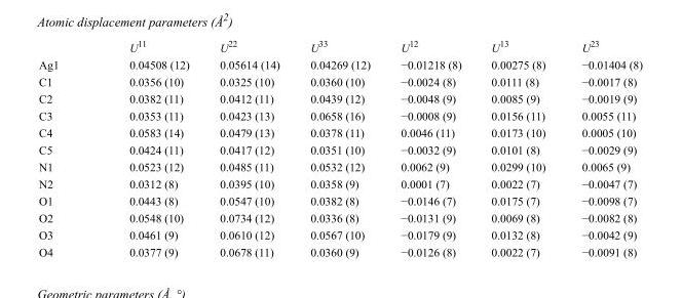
<table><thead><tr><td></td><td>U<sup>11</sup></td><td>U<sup>22</sup></td><td>U<sup>33</sup></td><td>U<sup>12</sup></td><td>U<sup>13</sup></td><td>U<sup>23</sup></td></tr></thead><tbody><tr><td>Ag1</td><td>0.04508 (12)</td><td>0.05614 (14)</td><td>0.04269 (12)</td><td>−0.01218 (8)</td><td>0.00275 (8)</td><td>−0.01404 (8)</td></tr><tr><td>C1</td><td>0.0356 (10)</td><td>0.0325 (10)</td><td>0.0360 (10)</td><td>−0.0024 (8)</td><td>0.0111 (8)</td><td>−0.0017 (8)</td></tr><tr><td>C2</td><td>0.0382 (11)</td><td>0.0412 (11)</td><td>0.0439 (12)</td><td>−0.0048 (9)</td><td>0.0085 (9)</td><td>−0.0019 (9)</td></tr><tr><td>C3</td><td>0.0353 (11)</td><td>0.0423 (13)</td><td>0.0658 (16)</td><td>−0.0008 (9)</td><td>0.0156 (11)</td><td>0.0055 (11)</td></tr><tr><td>C4</td><td>0.0583 (14)</td><td>0.0479 (13)</td><td>0.0378 (11)</td><td>0.0046 (11)</td><td>0.0173 (10)</td><td>0.0005 (10)</td></tr><tr><td>C5</td><td>0.0424 (11)</td><td>0.0417 (12)</td><td>0.0351 (10)</td><td>−0.0032 (9)</td><td>0.0101 (8)</td><td>−0.0029 (9)</td></tr><tr><td>N1</td><td>0.0523 (12)</td><td>0.0485 (11)</td><td>0.0532 (12)</td><td>0.0062 (9)</td><td>0.0299 (10)</td><td>0.0065 (9)</td></tr><tr><td>N2</td><td>0.0312 (8)</td><td>0.0395 (10)</td><td>0.0358 (9)</td><td>0.0001 (7)</td><td>0.0022 (7)</td><td>−0.0047 (7)</td></tr><tr><td>O1</td><td>0.0443 (8)</td><td>0.0547 (10)</td><td>0.0382 (8)</td><td>−0.0146 (7)</td><td>0.0175 (7)</td><td>−0.0098 (7)</td></tr><tr><td>O2</td><td>0.0548 (10)</td><td>0.0734 (12)</td><td>0.0336 (8)</td><td>−0.0131 (9)</td><td>0.0069 (8)</td><td>−0.0082 (8)</td></tr><tr><td>O3</td><td>0.0461 (9)</td><td>0.0610 (12)</td><td>0.0567 (10)</td><td>−0.0179 (9)</td><td>0.0132 (8)</td><td>−0.0042 (9)</td></tr><tr><td>O4</td><td>0.0377 (9)</td><td>0.0678 (11)</td><td>0.0360 (9)</td><td>−0.0126 (8)</td><td>0.0022 (7)</td><td>−0.0091 (8)</td></tr></tbody></table>